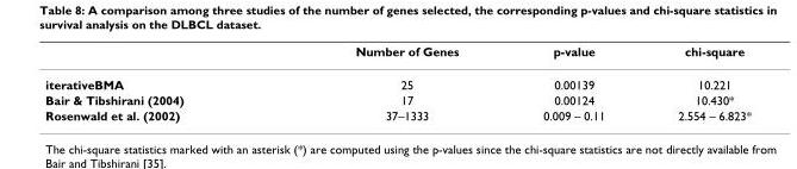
<table><thead><tr><td></td><td>Number of Genes</td><td>p-value</td><td>chi-square</td></tr></thead><tbody><tr><td>iterativeBMA</td><td>25</td><td>0.00139</td><td>10.221</td></tr><tr><td>Bair &amp; Tibshirani (2004)</td><td>17</td><td>0.00124</td><td>10.430*</td></tr><tr><td>Rosenwald et al. (2002)</td><td>37–1333</td><td>0.009 – 0.11</td><td>2.554 – 6.823*</td></tr></tbody></table>